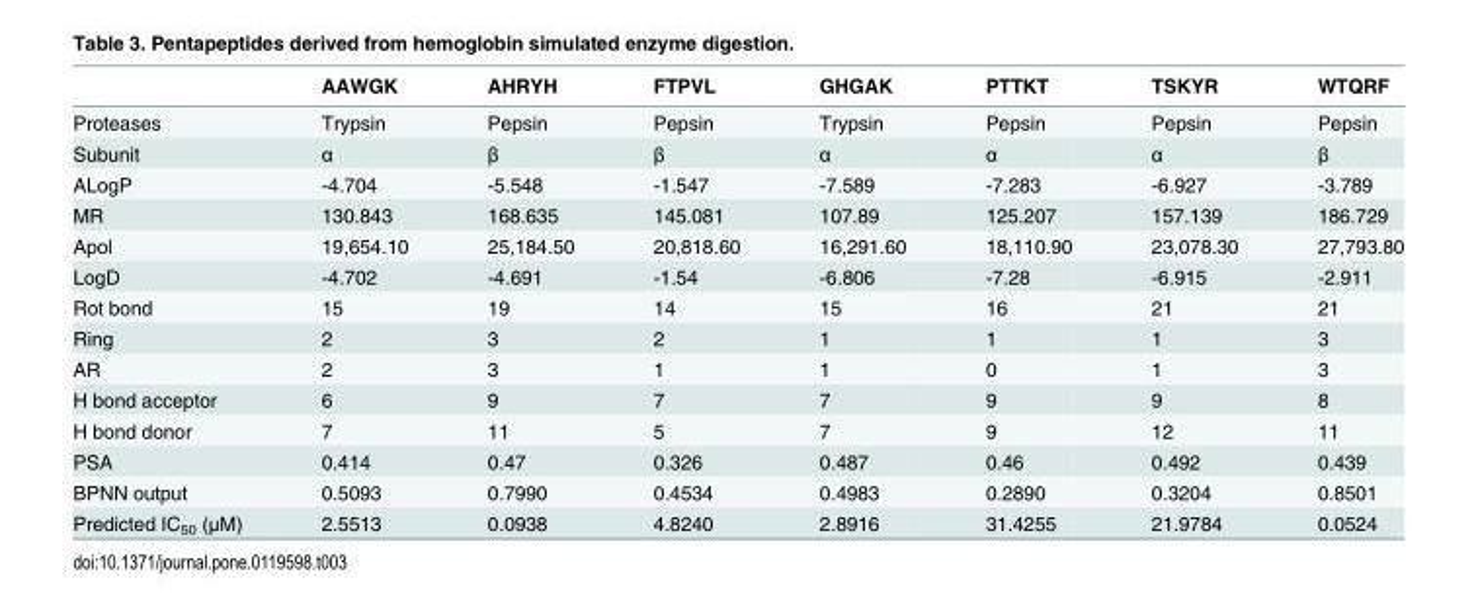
<table><thead><tr><td></td><td>AAWGK</td><td>AHRYH</td><td>FTPVL</td><td>GHGAK</td><td>PTTKT</td><td>TSKYR</td><td>WTQRF</td></tr></thead><tbody><tr><td>Proteases</td><td>Trypsin</td><td>Pepsin</td><td>Pepsin</td><td>Trypsin</td><td>Pepsin</td><td>Pepsin</td><td>Pepsin</td></tr><tr><td>Subunit</td><td>α</td><td>β</td><td>β</td><td>α</td><td>α</td><td>α</td><td>β</td></tr><tr><td>ALogP</td><td>-4.704</td><td>-5.548</td><td>-1.547</td><td>-7.589</td><td>-7.283</td><td>-6.927</td><td>-3.789</td></tr><tr><td>MR</td><td>130.843</td><td>168.635</td><td>145.081</td><td>107.89</td><td>125.207</td><td>157.139</td><td>186.729</td></tr><tr><td>Apol</td><td>19,654.10</td><td>25,184.50</td><td>20,818.60</td><td>16,291.60</td><td>18,110.90</td><td>23,078.30</td><td>27,793.80</td></tr><tr><td>LogD</td><td>-4.702</td><td>-4.691</td><td>-1.54</td><td>-6.806</td><td>-7.28</td><td>-6.915</td><td>-2.911</td></tr><tr><td>Rot bond</td><td>15</td><td>19</td><td>14</td><td>15</td><td>16</td><td>21</td><td>21</td></tr><tr><td>Ring</td><td>2</td><td>3</td><td>2</td><td>1</td><td>1</td><td>1</td><td>3</td></tr><tr><td>AR</td><td>2</td><td>3</td><td>1</td><td>1</td><td>0</td><td>1</td><td>3</td></tr><tr><td>H bond acceptor</td><td>6</td><td>9</td><td>7</td><td>7</td><td>9</td><td>9</td><td>8</td></tr><tr><td>H bond donor</td><td>7</td><td>11</td><td>5</td><td>7</td><td>9</td><td>12</td><td>11</td></tr><tr><td>PSA</td><td>0.414</td><td>0.47</td><td>0.326</td><td>0.487</td><td>0.46</td><td>0.492</td><td>0.439</td></tr><tr><td>BPNN output</td><td>0.5093</td><td>0.7990</td><td>0.4534</td><td>0.4983</td><td>0.2890</td><td>0.3204</td><td>0.8501</td></tr><tr><td>Predicted IC<sub>50</sub> (μM)</td><td>2.5513</td><td>0.0938</td><td>4.8240</td><td>2.8916</td><td>31.4255</td><td>21.9784</td><td>0.0524</td></tr></tbody></table>